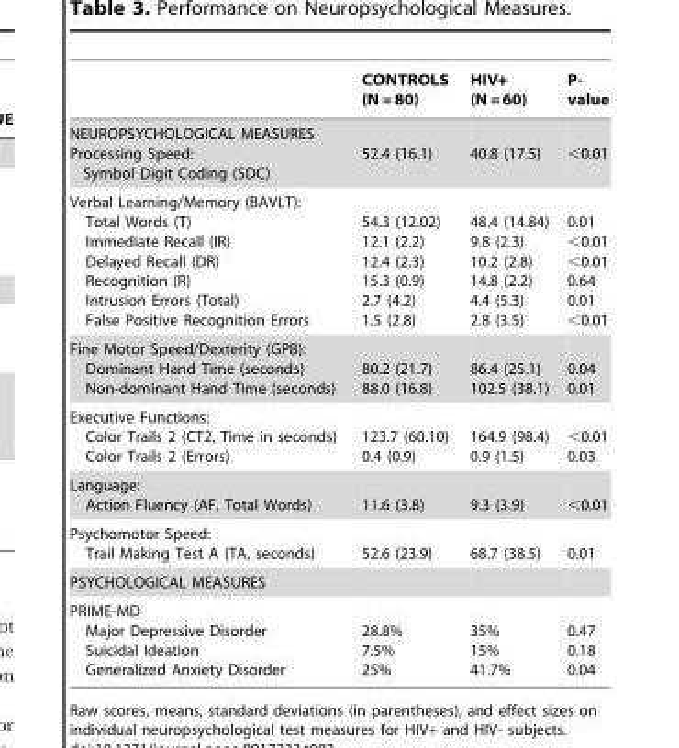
<table><thead><tr><td></td><td>CONTROLS (N = 80)</td><td>HIV+ (N = 60)</td><td>P- value</td></tr></thead><tbody><tr><td>NEUROPSYCHOLOGICAL MEASURES Processing Speed: Symbol Digit Coding (SDC)</td><td>52.4 (16.1)</td><td>40.8 (17.5)</td><td>&lt;0.01</td></tr><tr><td>Verbal Learning/Memory (BAVLT): Total Words (T) Immediate Recall (IR) Delayed Recall (DR) Recognition (R) Intrusion Errors (Total) False Positive Recognition Errors</td><td>54.3 (12.02) 12.1 (2.2) 12.4 (2.3) 15.3 (0.9) 2.7 (4.2) 1.5 (2.8)</td><td>48.4 (14.84) 9.8 (2.3) 10.2 (2.8) 14.8 (2.2) 4.4 (5.3) 2.8 (3.5)</td><td>0.01 &lt;0.01 &lt;0.01 0.64 0.01 &lt;0.01</td></tr><tr><td>Fine Motor Speed/Dexterity (GPB): Dominant Hand Time (seconds) Non-dominant Hand Time (seconds)</td><td>80.2 (21.7) 88.0 (16.8)</td><td>86.4 (25.1) 102.5 (38.1)</td><td>0.04 0.01</td></tr><tr><td>Executive Functions: Color Trails 2 (CT2, Time in seconds) Color Trails 2 (Errors)</td><td>123.7 (60.10) 0.4 (0.9)</td><td>164.9 (98.4) 0.9 (1.5)</td><td>&lt;0.01 0.03</td></tr><tr><td>Language: Action Fluency (AF, Total Words)</td><td>11.6 (3.8)</td><td>9.3 (3.9)</td><td>&lt;0.01</td></tr><tr><td>Psychomotor Speed: Trail Making Test A (TA, seconds)</td><td>52.6 (23.9)</td><td>68.7 (38.5)</td><td>0.01</td></tr><tr><td colspan="4">PSYCHOLOGICAL MEASURES</td></tr><tr><td>PRIME-MD Major Depressive Disorder Suicidal Ideation Generalized Anxiety Disorder</td><td>28.8% 7.5% 25%</td><td>35% 15% 41.7%</td><td>0.47 0.18 0.04</td></tr></tbody></table>